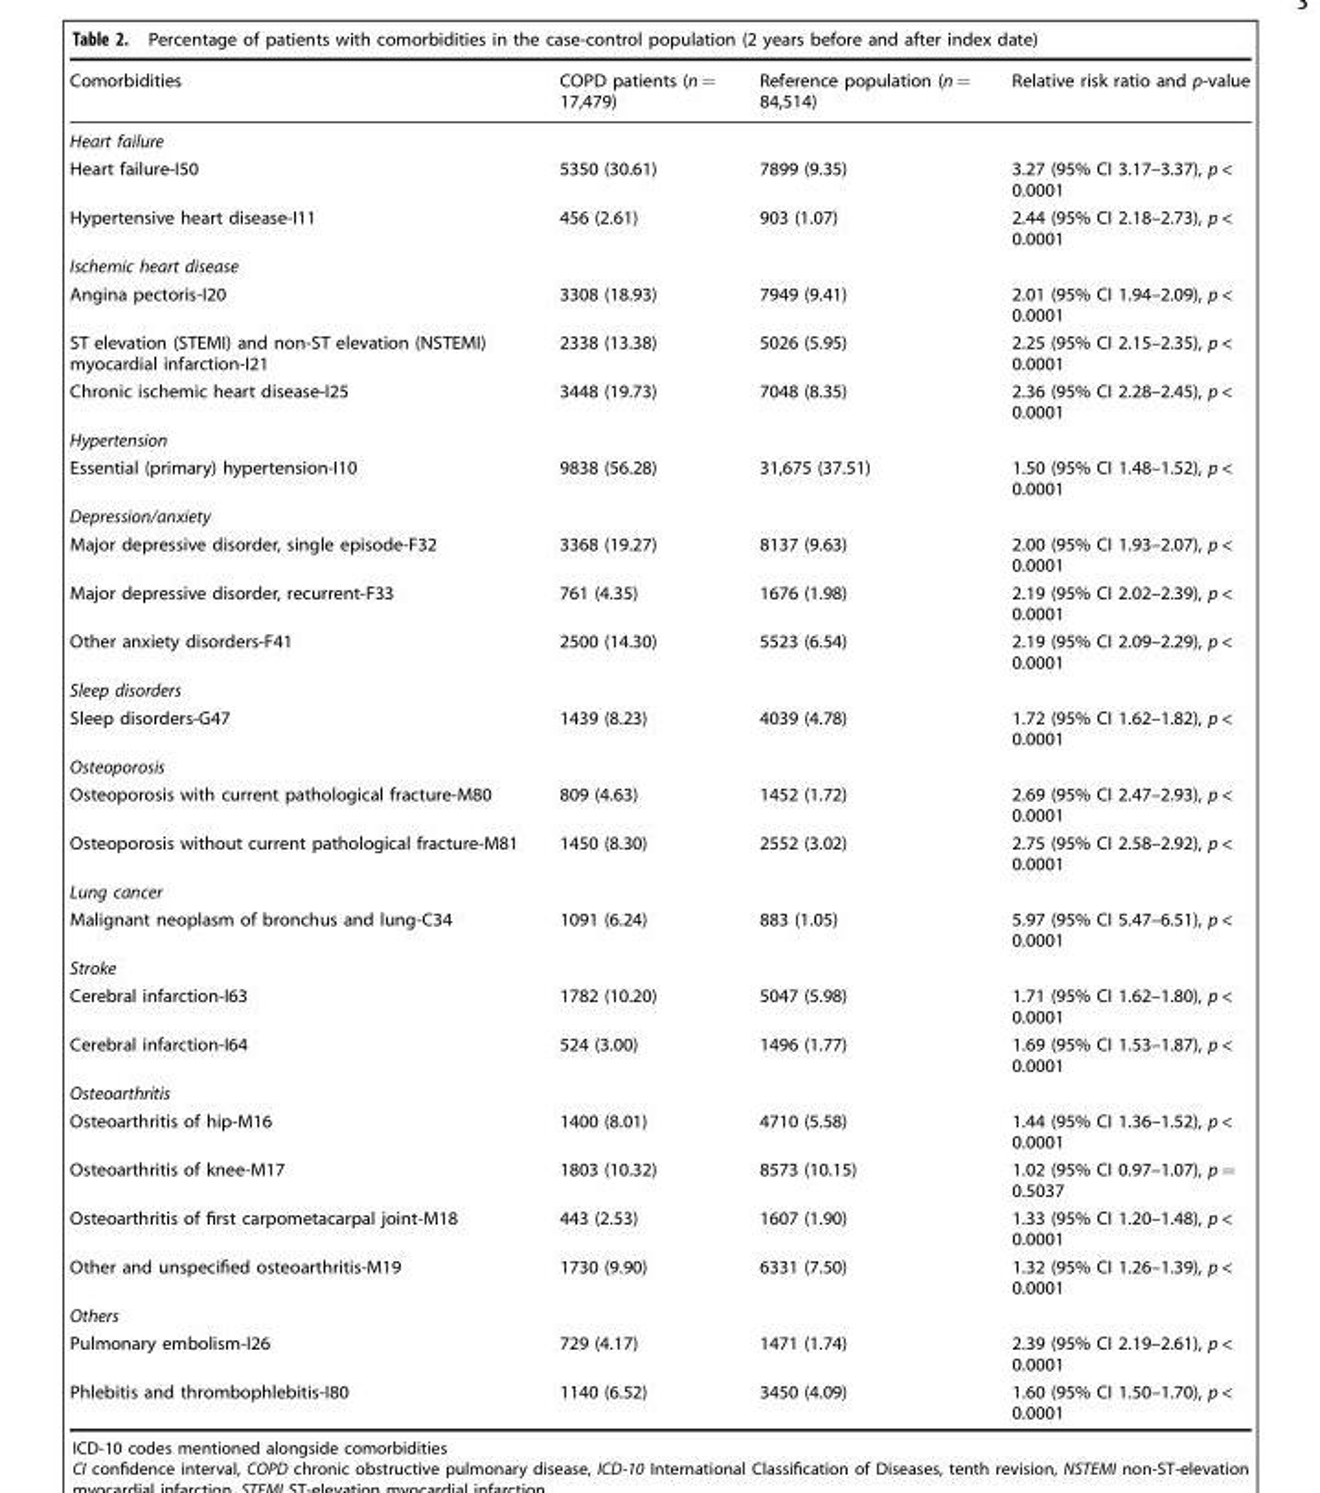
<table><thead><tr><td>Comorbidities</td><td>COPD patients (n = 17,479)</td><td>Reference population (n = 84,514)</td><td>Relative risk ratio and p-value</td></tr></thead><tbody><tr><td colspan="4">Heart failure</td></tr><tr><td>Heart failure-I50</td><td>5350 (30.61)</td><td>7899 (9.35)</td><td>3.27 (95% CI 3.17–3.37), p &lt; 0.0001</td></tr><tr><td>Hypertensive heart disease-I11</td><td>456 (2.61)</td><td>903 (1.07)</td><td>2.44 (95% CI 2.18–2.73), p &lt; 0.0001</td></tr><tr><td colspan="4">Ischemic heart disease</td></tr><tr><td>Angina pectoris-I20</td><td>3308 (18.93)</td><td>7949 (9.41)</td><td>2.01 (95% CI 1.94–2.09), p &lt; 0.0001</td></tr><tr><td>ST elevation (STEMI) and non-ST elevation (NSTEMI) myocardial infarction-I21</td><td>2338 (13.38)</td><td>5026 (5.95)</td><td>2.25 (95% CI 2.15–2.35), p &lt; 0.0001</td></tr><tr><td>Chronic ischemic heart disease-I25</td><td>3448 (19.73)</td><td>7048 (8.35)</td><td>2.36 (95% CI 2.28–2.45), p &lt; 0.0001</td></tr><tr><td colspan="4">Hypertension</td></tr><tr><td>Essential (primary) hypertension-I10</td><td>9838 (56.28)</td><td>31,675 (37.51)</td><td>1.50 (95% CI 1.48–1.52), p &lt; 0.0001</td></tr><tr><td colspan="4">Depression/anxiety</td></tr><tr><td>Major depressive disorder, single episode-F32</td><td>3368 (19.27)</td><td>8137 (9.63)</td><td>2.00 (95% CI 1.93–2.07), p &lt; 0.0001</td></tr><tr><td>Major depressive disorder, recurrent-F33</td><td>761 (4.35)</td><td>1676 (1.98)</td><td>2.19 (95% CI 2.02–2.39), p &lt; 0.0001</td></tr><tr><td>Other anxiety disorders-F41</td><td>2500 (14.30)</td><td>5523 (6.54)</td><td>2.19 (95% CI 2.09–2.29), p &lt; 0.0001</td></tr><tr><td colspan="4">Sleep disorders</td></tr><tr><td>Sleep disorders-G47</td><td>1439 (8.23)</td><td>4039 (4.78)</td><td>1.72 (95% CI 1.62–1.82), p &lt; 0.0001</td></tr><tr><td colspan="4">Osteoporosis</td></tr><tr><td>Osteoporosis with current pathological fracture-M80</td><td>809 (4.63)</td><td>1452 (1.72)</td><td>2.69 (95% CI 2.47–2.93), p &lt; 0.0001</td></tr><tr><td>Osteoporosis without current pathological fracture-M81</td><td>1450 (8.30)</td><td>2552 (3.02)</td><td>2.75 (95% CI 2.58–2.92), p &lt; 0.0001</td></tr><tr><td colspan="4">Lung cancer</td></tr><tr><td>Malignant neoplasm of bronchus and lung-C34</td><td>1091 (6.24)</td><td>883 (1.05)</td><td>5.97 (95% CI 5.47–6.51), p &lt; 0.0001</td></tr><tr><td colspan="4">Stroke</td></tr><tr><td>Cerebral infarction-I63</td><td>1782 (10.20)</td><td>5047 (5.98)</td><td>1.71 (95% CI 1.62–1.80), p &lt; 0.0001</td></tr><tr><td>Cerebral infarction-I64</td><td>524 (3.00)</td><td>1496 (1.77)</td><td>1.69 (95% CI 1.53–1.87), p &lt; 0.0001</td></tr><tr><td colspan="4">Osteoarthritis</td></tr><tr><td>Osteoarthritis of hip-M16</td><td>1400 (8.01)</td><td>4710 (5.58)</td><td>1.44 (95% CI 1.36–1.52), p &lt; 0.0001</td></tr><tr><td>Osteoarthritis of knee-M17</td><td>1803 (10.32)</td><td>8573 (10.15)</td><td>1.02 (95% CI 0.97–1.07), p = 0.5037</td></tr><tr><td>Osteoarthritis of first carpometacarpal joint-M18</td><td>443 (2.53)</td><td>1607 (1.90)</td><td>1.33 (95% CI 1.20–1.48), p &lt; 0.0001</td></tr><tr><td>Other and unspecified osteoarthritis-M19</td><td>1730 (9.90)</td><td>6331 (7.50)</td><td>1.32 (95% CI 1.26–1.39), p &lt; 0.0001</td></tr><tr><td colspan="4">Others</td></tr><tr><td>Pulmonary embolism-I26</td><td>729 (4.17)</td><td>1471 (1.74)</td><td>2.39 (95% CI 2.19–2.61), p &lt; 0.0001</td></tr><tr><td>Phlebitis and thrombophlebitis-I80</td><td>1140 (6.52)</td><td>3450 (4.09)</td><td>1.60 (95% CI 1.50–1.70), p &lt; 0.0001</td></tr></tbody></table>